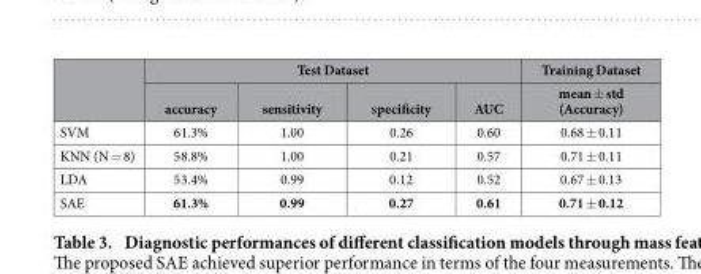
<table><thead><tr><td rowspan="2"></td><td colspan="4">Test Dataset</td><td rowspan="2">Training Dataset mean ± std (Accuracy)</td></tr><tr><td>accuracy</td><td>sensitivity</td><td>specificity</td><td>AUC</td></tr></thead><tbody><tr><td>SVM</td><td>61.3%</td><td>1.00</td><td>0.26</td><td>0.60</td><td>0.68 ± 0.11</td></tr><tr><td>KNN (N = 8)</td><td>58.8%</td><td>1.00</td><td>0.21</td><td>0.57</td><td>0.71 ± 0.11</td></tr><tr><td>LDA</td><td>53.4%</td><td>0.99</td><td>0.12</td><td>0.52</td><td>0.67 ± 0.13</td></tr><tr><td>SAE</td><td>61.3%</td><td>0.99</td><td>0.27</td><td>0.61</td><td>0.71 ± 0.12</td></tr></tbody></table>